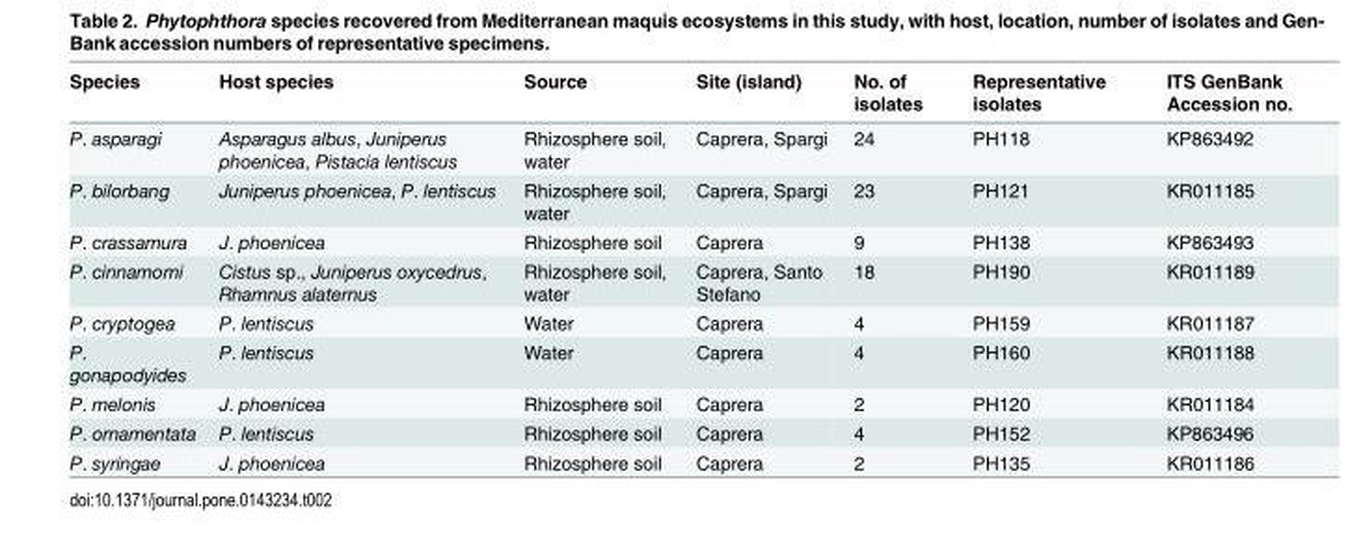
<table><thead><tr><td>Species</td><td>Host species</td><td>Source</td><td>Site (island)</td><td>No. of isolates</td><td>Representative isolates</td><td>ITS GenBank Accession no.</td></tr></thead><tbody><tr><td>P. asparagi</td><td>Asparagus albus, Juniperus phoenicea, Pistacia lentiscus</td><td>Rhizosphere soil, water</td><td>Caprera, Spargi</td><td>24</td><td>PH118</td><td>KP863492</td></tr><tr><td>P. bilorbang</td><td>Juniperus phoenicea, P. lentiscus</td><td>Rhizosphere soil, water</td><td>Caprera, Spargi</td><td>23</td><td>PH121</td><td>KR011185</td></tr><tr><td>P. crassamura</td><td>J. phoenicea</td><td>Rhizosphere soil</td><td>Caprera</td><td>9</td><td>PH138</td><td>KP863493</td></tr><tr><td>P. cinnamomi</td><td>Cistus sp., Juniperus oxycedrus, Rhamnus alaternus</td><td>Rhizosphere soil, water</td><td>Caprera, Santo Stefano</td><td>18</td><td>PH190</td><td>KR011189</td></tr><tr><td>P. cryptogea</td><td>P. lentiscus</td><td>Water</td><td>Caprera</td><td>4</td><td>PH159</td><td>KR011187</td></tr><tr><td>P. gonapodyides</td><td>P. lentiscus</td><td>Water</td><td>Caprera</td><td>4</td><td>PH160</td><td>KR011188</td></tr><tr><td>P. melonis</td><td>J. phoenicea</td><td>Rhizosphere soil</td><td>Caprera</td><td>2</td><td>PH120</td><td>KR011184</td></tr><tr><td>P. ornamentata</td><td>P. lentiscus</td><td>Rhizosphere soil</td><td>Caprera</td><td>4</td><td>PH152</td><td>KP863496</td></tr><tr><td>P. syringae</td><td>J. phoenicea</td><td>Rhizosphere soil</td><td>Caprera</td><td>2</td><td>PH135</td><td>KR011186</td></tr></tbody></table>